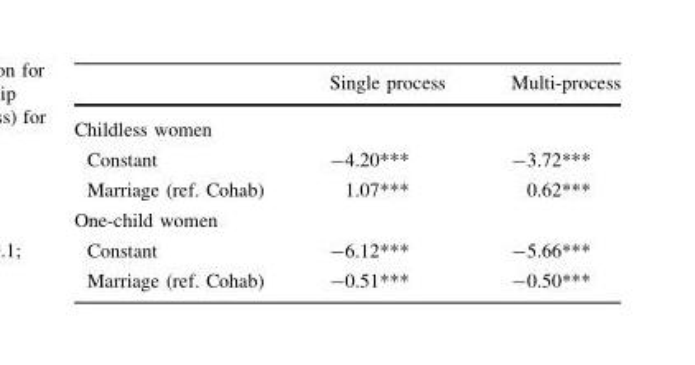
<table><thead><tr><td></td><td>Single process</td><td>Multi-process</td></tr></thead><tbody><tr><td colspan="3">Childless women</td></tr><tr><td>Constant</td><td>-4.20***</td><td>-3.72***</td></tr><tr><td>Marriage (ref. Cohab)</td><td>1.07***</td><td>0.62***</td></tr><tr><td colspan="3">One-child women</td></tr><tr><td>Constant</td><td>-6.12***</td><td>-5.66***</td></tr><tr><td>Marriage (ref. Cohab)</td><td>-0.51***</td><td>-0.50***</td></tr></tbody></table>